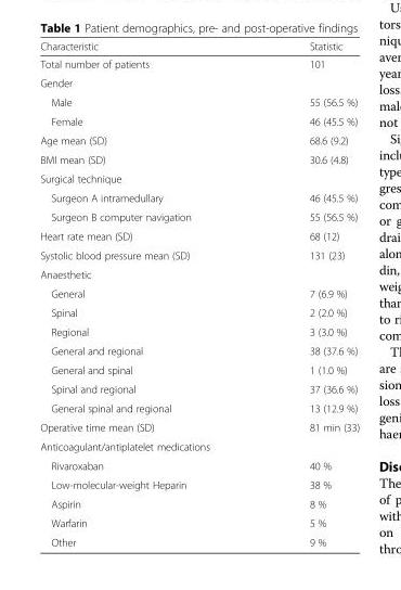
<table><thead><tr><td>Characteristic</td><td>Statistic</td></tr></thead><tbody><tr><td>Total number of patients</td><td>101</td></tr><tr><td colspan="2">Gender</td></tr><tr><td>Male</td><td>55 (56.5 %)</td></tr><tr><td>Female</td><td>46 (45.5 %)</td></tr><tr><td>Age mean (SD)</td><td>68.6 (9.2)</td></tr><tr><td>BMI mean (SD)</td><td>30.6 (4.8)</td></tr><tr><td colspan="2">Surgical technique</td></tr><tr><td>Surgeon A intramedullary</td><td>46 (45.5 %)</td></tr><tr><td>Surgeon B computer navigation</td><td>55 (56.5 %)</td></tr><tr><td>Heart rate mean (SD)</td><td>68 (12)</td></tr><tr><td>Systolic blood pressure mean (SD)</td><td>131 (23)</td></tr><tr><td colspan="2">Anaesthetic</td></tr><tr><td>General</td><td>7 (6.9 %)</td></tr><tr><td>Spinal</td><td>2 (2.0 %)</td></tr><tr><td>Regional</td><td>3 (3.0 %)</td></tr><tr><td>General and regional</td><td>38 (37.6 %)</td></tr><tr><td>General and spinal</td><td>1 (1.0 %)</td></tr><tr><td>Spinal and regional</td><td>37 (36.6 %)</td></tr><tr><td>General spinal and regional</td><td>13 (12.9 %)</td></tr><tr><td>Operative time mean (SD)</td><td>81 min (33)</td></tr><tr><td colspan="2">Anticoagulant/antiplatelet medications</td></tr><tr><td>Rivaroxaban</td><td>40 %</td></tr><tr><td>Low-molecular-weight Heparin</td><td>38 %</td></tr><tr><td>Aspirin</td><td>8 %</td></tr><tr><td>Warfarin</td><td>5 %</td></tr><tr><td>Other</td><td>9 %</td></tr></tbody></table>